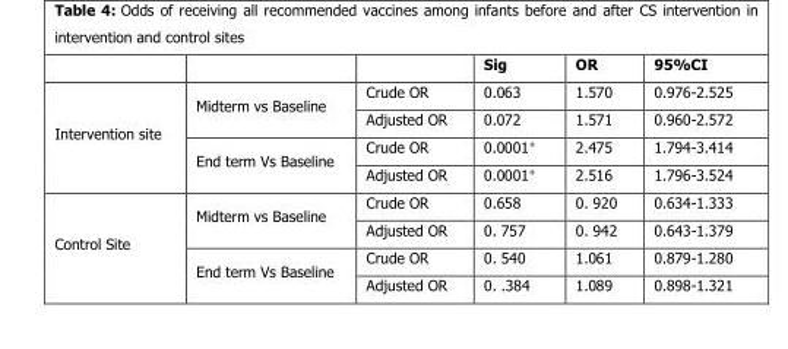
<table><thead><tr><td></td><td></td><td></td><td>Sig</td><td>OR</td><td>95%CI</td></tr></thead><tbody><tr><td rowspan="4">Intervention site</td><td rowspan="2">Midterm vs Baseline</td><td>Crude OR</td><td>0.063</td><td>1.570</td><td>0.976-2.525</td></tr><tr><td>Adjusted OR</td><td>0.072</td><td>1.571</td><td>0.960-2.572</td></tr><tr><td rowspan="2">End term Vs Baseline</td><td>Crude OR</td><td>0.0001<sup>+</sup></td><td>2.475</td><td>1.794-3.414</td></tr><tr><td>Adjusted OR</td><td>0.0001<sup>+</sup></td><td>2.516</td><td>1.796-3.524</td></tr><tr><td rowspan="4">Control Site</td><td rowspan="2">Midterm vs Baseline</td><td>Crude OR</td><td>0.658</td><td>0. 920</td><td>0.634-1.333</td></tr><tr><td>Adjusted OR</td><td>0. 757</td><td>0. 942</td><td>0.643-1.379</td></tr><tr><td rowspan="2">End term Vs Baseline</td><td>Crude OR</td><td>0. 540</td><td>1.061</td><td>0.879-1.280</td></tr><tr><td>Adjusted OR</td><td>0. .384</td><td>1.089</td><td>0.898-1.321</td></tr></tbody></table>